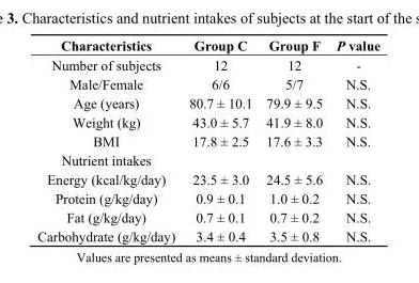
<table><thead><tr><td>Characteristics</td><td>Group C</td><td>Group F</td><td>P value</td></tr></thead><tbody><tr><td>Number of subjects</td><td>12</td><td>12</td><td>-</td></tr><tr><td>Male/Female</td><td>6/6</td><td>5/7</td><td>N.S.</td></tr><tr><td>Age (years)</td><td>80.7 ± 10.1</td><td>79.9 ± 9.5</td><td>N.S.</td></tr><tr><td>Weight (kg)</td><td>43.0 ± 5.7</td><td>41.9 ± 8.0</td><td>N.S.</td></tr><tr><td>BMI</td><td>17.8 ± 2.5</td><td>17.6 ± 3.3</td><td>N.S.</td></tr><tr><td colspan="4">Nutrient intakes</td></tr><tr><td>Energy (kcal/kg/day)</td><td>23.5 ± 3.0</td><td>24.5 ± 5.6</td><td>N.S.</td></tr><tr><td>Protein (g/kg/day)</td><td>0.9 ± 0.1</td><td>1.0 ± 0.2</td><td>N.S.</td></tr><tr><td>Fat (g/kg/day)</td><td>0.7 ± 0.1</td><td>0.7 ± 0.2</td><td>N.S.</td></tr><tr><td>Carbohydrate (g/kg/day)</td><td>3.4 ± 0.4</td><td>3.5 ± 0.8</td><td>N.S.</td></tr></tbody></table>